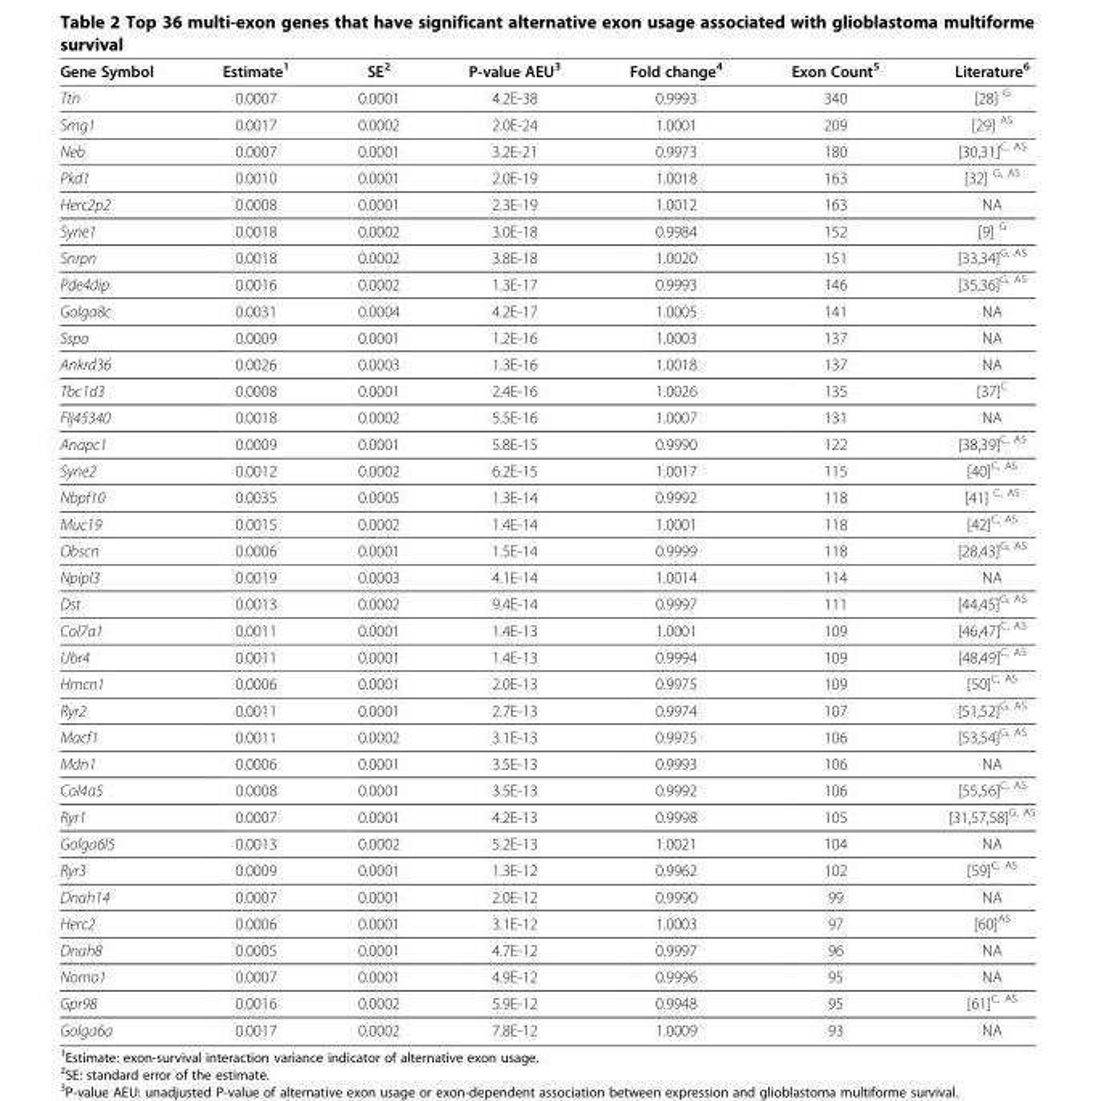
<table><thead><tr><td>Gene Symbol</td><td>Estimate<sup>1</sup></td><td>SE<sup>2</sup></td><td>P-value AEU<sup>3</sup></td><td>Fold change<sup>4</sup></td><td>Exon Count<sup>5</sup></td><td>Literature<sup>6</sup></td></tr></thead><tbody><tr><td>Ttn</td><td>0.0007</td><td>0.0001</td><td>4.2E-38</td><td>0.9993</td><td>340</td><td>[28] <sup>G</sup></td></tr><tr><td>Smg1</td><td>0.0017</td><td>0.0002</td><td>2.0E-24</td><td>1.0001</td><td>209</td><td>[29] <sup>AS</sup></td></tr><tr><td>Neb</td><td>0.0007</td><td>0.0001</td><td>3.2E-21</td><td>0.9973</td><td>180</td><td>[30,31]<sup>C, AS</sup></td></tr><tr><td>Pkd1</td><td>0.0010</td><td>0.0001</td><td>2.0E-19</td><td>1.0018</td><td>163</td><td>[32] <sup>G, AS</sup></td></tr><tr><td>Herc2p2</td><td>0.0008</td><td>0.0001</td><td>2.3E-19</td><td>1.0012</td><td>163</td><td>NA</td></tr><tr><td>Syne1</td><td>0.0018</td><td>0.0002</td><td>3.0E-18</td><td>0.9984</td><td>152</td><td>[9] <sup>G</sup></td></tr><tr><td>Snrpn</td><td>0.0018</td><td>0.0002</td><td>3.8E-18</td><td>1.0020</td><td>151</td><td>[33,34]<sup>G, AS</sup></td></tr><tr><td>Pde4dip</td><td>0.0016</td><td>0.0002</td><td>1.3E-17</td><td>0.9993</td><td>146</td><td>[35,36]<sup>G, AS</sup></td></tr><tr><td>Golga8c</td><td>0.0031</td><td>0.0004</td><td>4.2E-17</td><td>1.0005</td><td>141</td><td>NA</td></tr><tr><td>Sspo</td><td>0.0009</td><td>0.0001</td><td>1.2E-16</td><td>1.0003</td><td>137</td><td>NA</td></tr><tr><td>Ankrd36</td><td>0.0026</td><td>0.0003</td><td>1.3E-16</td><td>1.0018</td><td>137</td><td>NA</td></tr><tr><td>Tbc1d3</td><td>0.0008</td><td>0.0001</td><td>2.4E-16</td><td>1.0026</td><td>135</td><td>[37]<sup>C</sup></td></tr><tr><td>Flj45340</td><td>0.0018</td><td>0.0002</td><td>5.5E-16</td><td>1.0007</td><td>131</td><td>NA</td></tr><tr><td>Anapc1</td><td>0.0009</td><td>0.0001</td><td>5.8E-15</td><td>0.9990</td><td>122</td><td>[38,39]<sup>C, AS</sup></td></tr><tr><td>Syne2</td><td>0.0012</td><td>0.0002</td><td>6.2E-15</td><td>1.0017</td><td>115</td><td>[40]<sup>C, AS</sup></td></tr><tr><td>Nbpf10</td><td>0.0035</td><td>0.0005</td><td>1.3E-14</td><td>0.9992</td><td>118</td><td>[41] <sup>C, AS</sup></td></tr><tr><td>Muc19</td><td>0.0015</td><td>0.0002</td><td>1.4E-14</td><td>1.0001</td><td>118</td><td>[42]<sup>C, AS</sup></td></tr><tr><td>Obscn</td><td>0.0006</td><td>0.0001</td><td>1.5E-14</td><td>0.9999</td><td>118</td><td>[28,43]<sup>G, AS</sup></td></tr><tr><td>Npipl3</td><td>0.0019</td><td>0.0003</td><td>4.1E-14</td><td>1.0014</td><td>114</td><td>NA</td></tr><tr><td>Dst</td><td>0.0013</td><td>0.0002</td><td>9.4E-14</td><td>0.9997</td><td>111</td><td>[44,45]<sup>G, AS</sup></td></tr><tr><td>Col7a1</td><td>0.0011</td><td>0.0001</td><td>1.4E-13</td><td>1.0001</td><td>109</td><td>[46,47]<sup>C, AS</sup></td></tr><tr><td>Ubr4</td><td>0.0011</td><td>0.0001</td><td>1.4E-13</td><td>0.9994</td><td>109</td><td>[48,49]<sup>C, AS</sup></td></tr><tr><td>Hmcn1</td><td>0.0006</td><td>0.0001</td><td>2.0E-13</td><td>0.9975</td><td>109</td><td>[50]<sup>C, AS</sup></td></tr><tr><td>Ryr2</td><td>0.0011</td><td>0.0001</td><td>2.7E-13</td><td>0.9974</td><td>107</td><td>[51,52]<sup>G, AS</sup></td></tr><tr><td>Macf1</td><td>0.0011</td><td>0.0002</td><td>3.1E-13</td><td>0.9975</td><td>106</td><td>[53,54]<sup>G, AS</sup></td></tr><tr><td>Mdn1</td><td>0.0006</td><td>0.0001</td><td>3.5E-13</td><td>0.9993</td><td>106</td><td>NA</td></tr><tr><td>Col4a5</td><td>0.0008</td><td>0.0001</td><td>3.5E-13</td><td>0.9992</td><td>106</td><td>[55,56]<sup>C, AS</sup></td></tr><tr><td>Ryr1</td><td>0.0007</td><td>0.0001</td><td>4.2E-13</td><td>0.9998</td><td>105</td><td>[31,57,58]<sup>G, AS</sup></td></tr><tr><td>Golga6l5</td><td>0.0013</td><td>0.0002</td><td>5.2E-13</td><td>1.0021</td><td>104</td><td>NA</td></tr><tr><td>Ryr3</td><td>0.0009</td><td>0.0001</td><td>1.3E-12</td><td>0.9962</td><td>102</td><td>[59]<sup>C, AS</sup></td></tr><tr><td>Dnah14</td><td>0.0007</td><td>0.0001</td><td>2.0E-12</td><td>0.9990</td><td>99</td><td>NA</td></tr><tr><td>Herc2</td><td>0.0006</td><td>0.0001</td><td>3.1E-12</td><td>1.0003</td><td>97</td><td>[60]<sup>AS</sup></td></tr><tr><td>Dnah8</td><td>0.0005</td><td>0.0001</td><td>4.7E-12</td><td>0.9997</td><td>96</td><td>NA</td></tr><tr><td>Nomo1</td><td>0.0007</td><td>0.0001</td><td>4.9E-12</td><td>0.9996</td><td>95</td><td>NA</td></tr><tr><td>Gpr98</td><td>0.0016</td><td>0.0002</td><td>5.9E-12</td><td>0.9948</td><td>95</td><td>[61]<sup>C, AS</sup></td></tr><tr><td>Golga6a</td><td>0.0017</td><td>0.0002</td><td>7.8E-12</td><td>1.0009</td><td>93</td><td>NA</td></tr></tbody></table>